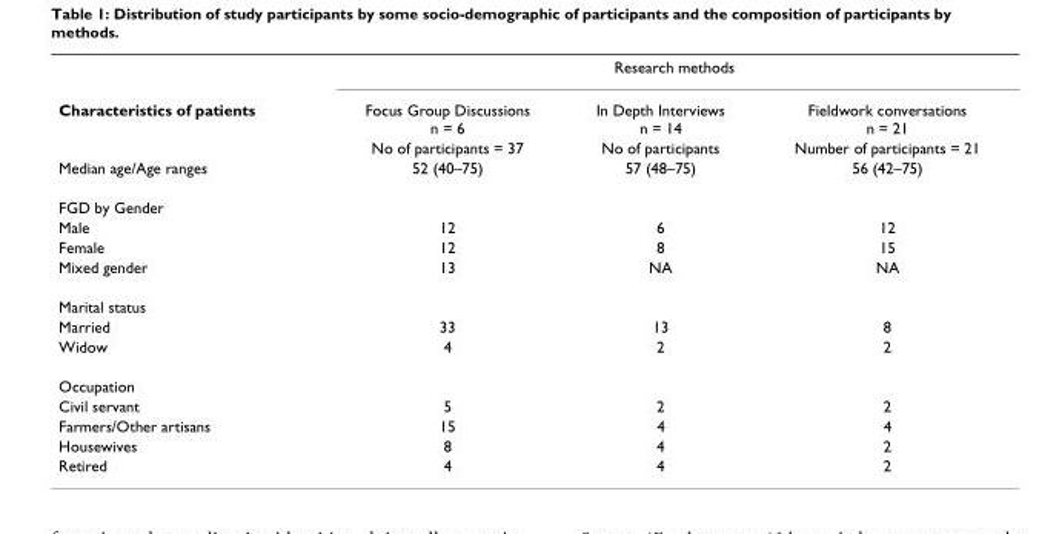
<table><thead><tr><td rowspan="2">Characteristics of patients</td><td colspan="3">Research methods</td></tr><tr><td>Focus Group Discussions n = 6</td><td>In Depth Interviews n = 14</td><td>Fieldwork conversations n = 21</td></tr></thead><tbody><tr><td></td><td>No of participants = 37</td><td>No of participants</td><td>Number of participants = 21</td></tr><tr><td>Median age/Age ranges</td><td>52 (40–75)</td><td>57 (48–75)</td><td>56 (42–75)</td></tr><tr><td colspan="4">FGD by Gender</td></tr><tr><td>Male</td><td>12</td><td>6</td><td>12</td></tr><tr><td>Female</td><td>12</td><td>8</td><td>15</td></tr><tr><td>Mixed gender</td><td>13</td><td>NA</td><td>NA</td></tr><tr><td colspan="4">Marital status</td></tr><tr><td>Married</td><td>33</td><td>13</td><td>8</td></tr><tr><td>Widow</td><td>4</td><td>2</td><td>2</td></tr><tr><td colspan="4">Occupation</td></tr><tr><td>Civil servant</td><td>5</td><td>2</td><td>2</td></tr><tr><td>Farmers/Other artisans</td><td>15</td><td>4</td><td>4</td></tr><tr><td>Housewives</td><td>8</td><td>4</td><td>2</td></tr><tr><td>Retired</td><td>4</td><td>4</td><td>2</td></tr></tbody></table>